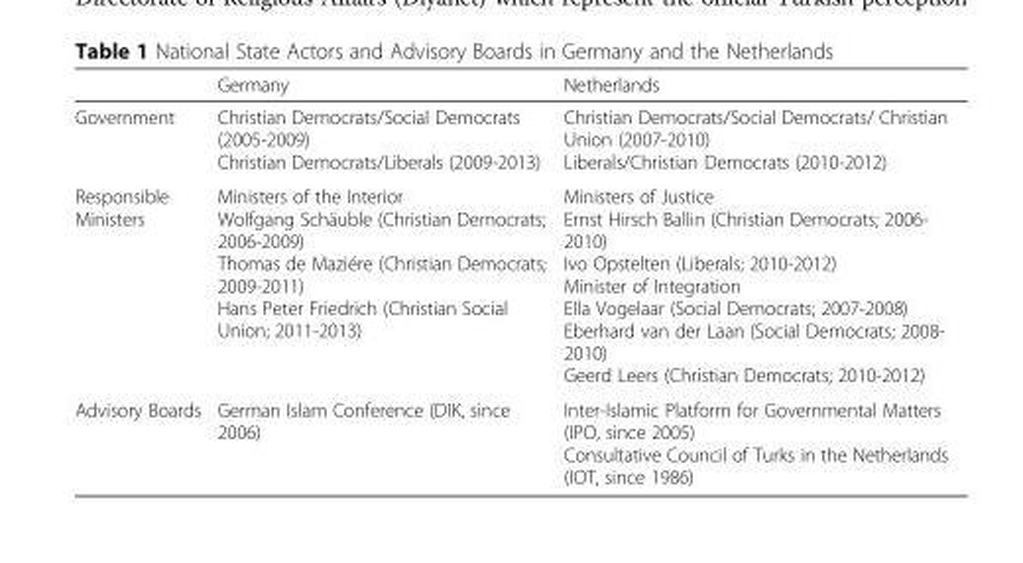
<table><thead><tr><td></td><td>Germany</td><td>Netherlands</td></tr></thead><tbody><tr><td>Government</td><td>Christian Democrats/Social Democrats (2005-2009) Christian Democrats/Liberals (2009-2013)</td><td>Christian Democrats/Social Democrats/ Christian Union (2007-2010) Liberals/Christian Democrats (2010-2012)</td></tr><tr><td>Responsible Ministers</td><td>Ministers of the Interior Wolfgang Schäuble (Christian Democrats; 2006-2009) Thomas de Maziére (Christian Democrats; 2009-2011) Hans Peter Friedrich (Christian Social Union; 2011-2013)</td><td>Ministers of Justice Ernst Hirsch Ballin (Christian Democrats; 2006- 2010) Ivo Opstelten (Liberals; 2010-2012) Minister of Integration Ella Vogelaar (Social Democrats; 2007-2008) Eberhard van der Laan (Social Democrats; 2008- 2010) Geerd Leers (Christian Democrats; 2010-2012)</td></tr><tr><td>Advisory Boards</td><td>German Islam Conference (DIK, since 2006)</td><td>Inter-Islamic Platform for Governmental Matters (IPO, since 2005) Consultative Council of Turks in the Netherlands (IOT, since 1986)</td></tr></tbody></table>